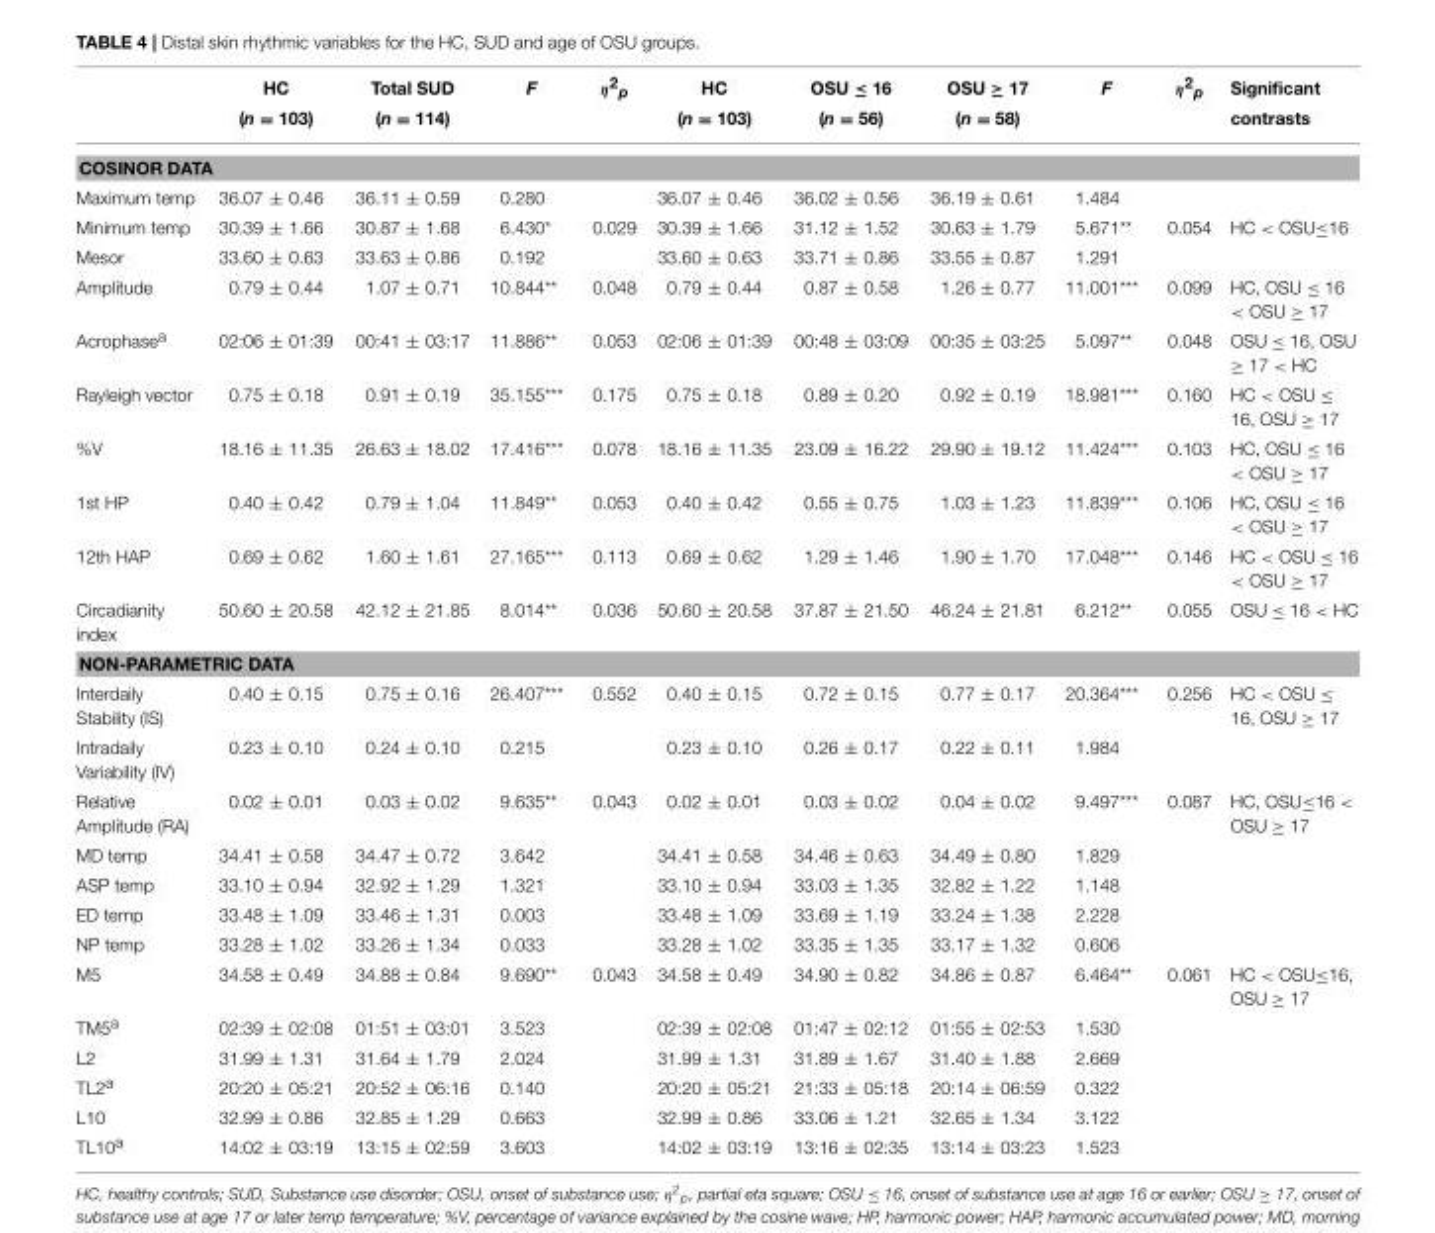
<table><thead><tr><td></td><td>HC (n = 103)</td><td>Total SUD (n = 114)</td><td>F</td><td>η2p</td><td>HC (n = 103)</td><td>OSU ≤ 16 (n = 56)</td><td>OSU ≥ 17 (n = 58)</td><td>F</td><td>η2p</td><td>Significant contrasts</td></tr></thead><tbody><tr><td colspan="11">COSINOR DATA</td></tr><tr><td>Maximum temp</td><td>36.07 ± 0.46</td><td>36.11 ± 0.59</td><td>0.280</td><td></td><td>36.07 ± 0.46</td><td>36.02 ± 0.56</td><td>36.19 ± 0.61</td><td>1.484</td><td></td><td></td></tr><tr><td>Minimum temp</td><td>30.39 ± 1.66</td><td>30.87 ± 1.68</td><td>6.430*</td><td>0.029</td><td>30.39 ± 1.66</td><td>31.12 ± 1.52</td><td>30.63 ± 1.79</td><td>5.671**</td><td>0.054</td><td>HC &lt; OSU≤16</td></tr><tr><td>Mesor</td><td>33.60 ± 0.63</td><td>33.63 ± 0.86</td><td>0.192</td><td></td><td>33.60 ± 0.63</td><td>33.71 ± 0.86</td><td>33.55 ± 0.87</td><td>1.291</td><td></td><td></td></tr><tr><td>Amplitude</td><td>0.79 ± 0.44</td><td>1.07 ± 0.71</td><td>10.844**</td><td>0.048</td><td>0.79 ± 0.44</td><td>0.87 ± 0.58</td><td>1.26 ± 0.77</td><td>11.001***</td><td>0.099</td><td>HC, OSU ≤ 16 &lt; OSU ≥ 17</td></tr><tr><td>Acrophase<sup>a</sup></td><td>02:06 ± 01:39</td><td>00:41 ± 03:17</td><td>11.886**</td><td>0.053</td><td>02:06 ± 01:39</td><td>00:48 ± 03:09</td><td>00:35 ± 03:25</td><td>5.097**</td><td>0.048</td><td>OSU ≤ 16, OSU ≥ 17 &lt; HC</td></tr><tr><td>Rayleigh vector</td><td>0.75 ± 0.18</td><td>0.91 ± 0.19</td><td>35.155***</td><td>0.175</td><td>0.75 ± 0.18</td><td>0.89 ± 0.20</td><td>0.92 ± 0.19</td><td>18.981***</td><td>0.160</td><td>HC &lt; OSU ≤ 16, OSU ≥ 17</td></tr><tr><td>%V</td><td>18.16 ± 11.35</td><td>26.63 ± 18.02</td><td>17.416***</td><td>0.078</td><td>18.16 ± 11.35</td><td>23.09 ± 16.22</td><td>29.90 ± 19.12</td><td>11.424***</td><td>0.103</td><td>HC, OSU ≤ 16 &lt; OSU ≥ 17</td></tr><tr><td>1st HP</td><td>0.40 ± 0.42</td><td>0.79 ± 1.04</td><td>11.849**</td><td>0.053</td><td>0.40 ± 0.42</td><td>0.55 ± 0.75</td><td>1.03 ± 1.23</td><td>11.839***</td><td>0.106</td><td>HC, OSU ≤ 16 &lt; OSU ≥ 17</td></tr><tr><td>12th HAP</td><td>0.69 ± 0.62</td><td>1.60 ± 1.61</td><td>27.165***</td><td>0.113</td><td>0.69 ± 0.62</td><td>1.29 ± 1.46</td><td>1.90 ± 1.70</td><td>17.048***</td><td>0.146</td><td>HC &lt; OSU ≤ 16 &lt; OSU ≥ 17</td></tr><tr><td>Circadianity index</td><td>50.60 ± 20.58</td><td>42.12 ± 21.85</td><td>8.014**</td><td>0.036</td><td>50.60 ± 20.58</td><td>37.87 ± 21.50</td><td>46.24 ± 21.81</td><td>6.212**</td><td>0.055</td><td>OSU ≤ 16 &lt; HC</td></tr><tr><td colspan="11">NON-PARAMETRIC DATA</td></tr><tr><td>Interdaily Stability (IS)</td><td>0.40 ± 0.15</td><td>0.75 ± 0.16</td><td>26.407***</td><td>0.552</td><td>0.40 ± 0.15</td><td>0.72 ± 0.15</td><td>0.77 ± 0.17</td><td>20.364***</td><td>0.256</td><td>HC &lt; OSU ≤ 16, OSU ≥ 17</td></tr><tr><td>Intradaily Variability (IV)</td><td>0.23 ± 0.10</td><td>0.24 ± 0.10</td><td>0.215</td><td></td><td>0.23 ± 0.10</td><td>0.26 ± 0.17</td><td>0.22 ± 0.11</td><td>1.984</td><td></td><td></td></tr><tr><td>Relative Amplitude (RA)</td><td>0.02 ± 0.01</td><td>0.03 ± 0.02</td><td>9.635**</td><td>0.043</td><td>0.02 ± 0.01</td><td>0.03 ± 0.02</td><td>0.04 ± 0.02</td><td>9.497***</td><td>0.087</td><td>HC, OSU≤16 &lt; OSU ≥ 17</td></tr><tr><td>MD temp</td><td>34.41 ± 0.58</td><td>34.47 ± 0.72</td><td>3.642</td><td></td><td>34.41 ± 0.58</td><td>34.46 ± 0.63</td><td>34.49 ± 0.80</td><td>1.829</td><td></td><td></td></tr><tr><td>ASP temp</td><td>33.10 ± 0.94</td><td>32.92 ± 1.29</td><td>1.321</td><td></td><td>33.10 ± 0.94</td><td>33.03 ± 1.35</td><td>32.82 ± 1.22</td><td>1.148</td><td></td><td></td></tr><tr><td>ED temp</td><td>33.48 ± 1.09</td><td>33.46 ± 1.31</td><td>0.003</td><td></td><td>33.48 ± 1.09</td><td>33.69 ± 1.19</td><td>33.24 ± 1.38</td><td>2.228</td><td></td><td></td></tr><tr><td>NP temp</td><td>33.28 ± 1.02</td><td>33.26 ± 1.34</td><td>0.033</td><td></td><td>33.28 ± 1.02</td><td>33.35 ± 1.35</td><td>33.17 ± 1.32</td><td>0.606</td><td></td><td></td></tr><tr><td>M5</td><td>34.58 ± 0.49</td><td>34.88 ± 0.84</td><td>9.690**</td><td>0.043</td><td>34.58 ± 0.49</td><td>34.90 ± 0.82</td><td>34.86 ± 0.87</td><td>6.464**</td><td>0.061</td><td>HC &lt; OSU≤16, OSU ≥ 17</td></tr><tr><td>TM5<sup>a</sup></td><td>02:39 ± 02:08</td><td>01:51 ± 03:01</td><td>3.523</td><td></td><td>02:39 ± 02:08</td><td>01:47 ± 02:12</td><td>01:55 ± 02:53</td><td>1.530</td><td></td><td></td></tr><tr><td>L2</td><td>31.99 ± 1.31</td><td>31.64 ± 1.79</td><td>2.024</td><td></td><td>31.99 ± 1.31</td><td>31.89 ± 1.67</td><td>31.40 ± 1.88</td><td>2.669</td><td></td><td></td></tr><tr><td>TL2<sup>a</sup></td><td>20:20 ± 05:21</td><td>20:52 ± 06:16</td><td>0.140</td><td></td><td>20:20 ± 05:21</td><td>21:33 ± 05:18</td><td>20:14 ± 06:59</td><td>0.322</td><td></td><td></td></tr><tr><td>L10</td><td>32.99 ± 0.86</td><td>32.85 ± 1.29</td><td>0.663</td><td></td><td>32.99 ± 0.86</td><td>33.06 ± 1.21</td><td>32.65 ± 1.34</td><td>3.122</td><td></td><td></td></tr><tr><td>TL10<sup>a</sup></td><td>14:02 ± 03:19</td><td>13:15 ± 02:59</td><td>3.603</td><td></td><td>14:02 ± 03:19</td><td>13:16 ± 02:35</td><td>13:14 ± 03:23</td><td>1.523</td><td></td><td></td></tr></tbody></table>